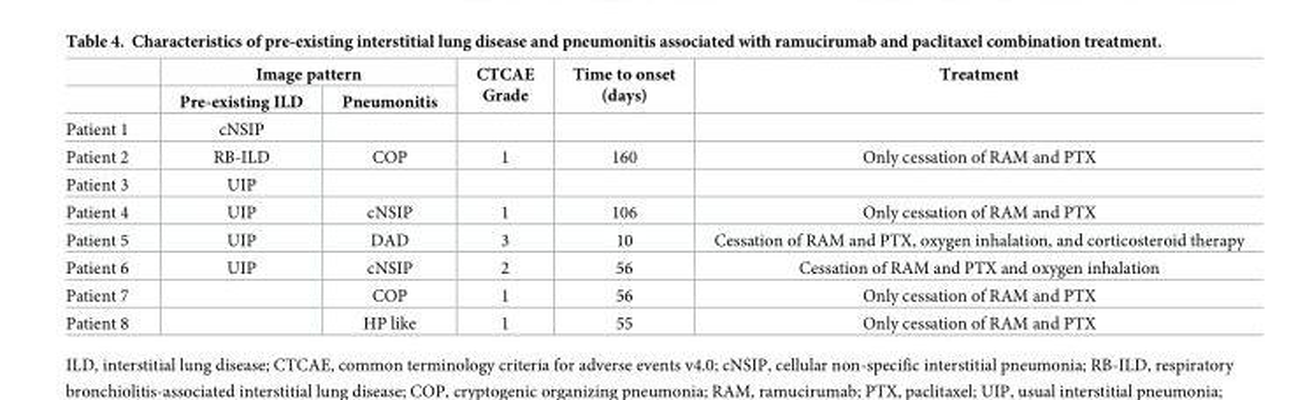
<table><thead><tr><td rowspan="2"></td><td colspan="2">Image pattern</td><td rowspan="2">CTCAE Grade</td><td rowspan="2">Time to onset (days)</td><td rowspan="2">Treatment</td></tr><tr><td>Pre-existing ILD</td><td>Pneumonitis</td></tr></thead><tbody><tr><td>Patient 1</td><td>cNSIP</td><td></td><td></td><td></td><td></td></tr><tr><td>Patient 2</td><td>RB-ILD</td><td>COP</td><td>1</td><td>160</td><td>Only cessation of RAM and PTX</td></tr><tr><td>Patient 3</td><td>UIP</td><td></td><td></td><td></td><td></td></tr><tr><td>Patient 4</td><td>UIP</td><td>cNSIP</td><td>1</td><td>106</td><td>Only cessation of RAM and PTX</td></tr><tr><td>Patient 5</td><td>UIP</td><td>DAD</td><td>3</td><td>10</td><td>Cessation of RAM and PTX, oxygen inhalation, and corticosteroid therapy</td></tr><tr><td>Patient 6</td><td>UIP</td><td>cNSIP</td><td>2</td><td>56</td><td>Cessation of RAM and PTX and oxygen inhalation</td></tr><tr><td>Patient 7</td><td></td><td>COP</td><td>1</td><td>56</td><td>Only cessation of RAM and PTX</td></tr><tr><td>Patient 8</td><td></td><td>HP like</td><td>1</td><td>55</td><td>Only cessation of RAM and PTX</td></tr></tbody></table>